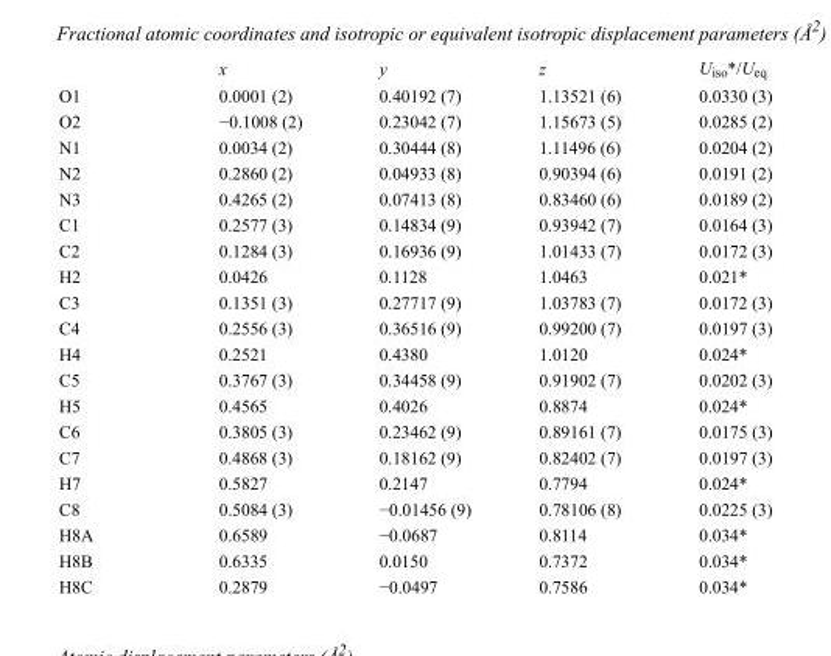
<table><thead><tr><td></td><td>x</td><td>y</td><td>z</td><td>U<sub>iso</sub>*/U<sub>eq</sub></td></tr></thead><tbody><tr><td>O1</td><td>0.0001 (2)</td><td>0.40192 (7)</td><td>1.13521 (6)</td><td>0.0330 (3)</td></tr><tr><td>O2</td><td>−0.1008 (2)</td><td>0.23042 (7)</td><td>1.15673 (5)</td><td>0.0285 (2)</td></tr><tr><td>N1</td><td>0.0034 (2)</td><td>0.30444 (8)</td><td>1.11496 (6)</td><td>0.0204 (2)</td></tr><tr><td>N2</td><td>0.2860 (2)</td><td>0.04933 (8)</td><td>0.90394 (6)</td><td>0.0191 (2)</td></tr><tr><td>N3</td><td>0.4265 (2)</td><td>0.07413 (8)</td><td>0.83460 (6)</td><td>0.0189 (2)</td></tr><tr><td>C1</td><td>0.2577 (3)</td><td>0.14834 (9)</td><td>0.93942 (7)</td><td>0.0164 (3)</td></tr><tr><td>C2</td><td>0.1284 (3)</td><td>0.16936 (9)</td><td>1.01433 (7)</td><td>0.0172 (3)</td></tr><tr><td>H2</td><td>0.0426</td><td>0.1128</td><td>1.0463</td><td>0.021*</td></tr><tr><td>C3</td><td>0.1351 (3)</td><td>0.27717 (9)</td><td>1.03783 (7)</td><td>0.0172 (3)</td></tr><tr><td>C4</td><td>0.2556 (3)</td><td>0.36516 (9)</td><td>0.99200 (7)</td><td>0.0197 (3)</td></tr><tr><td>H4</td><td>0.2521</td><td>0.4380</td><td>1.0120</td><td>0.024*</td></tr><tr><td>C5</td><td>0.3767 (3)</td><td>0.34458 (9)</td><td>0.91902 (7)</td><td>0.0202 (3)</td></tr><tr><td>H5</td><td>0.4565</td><td>0.4026</td><td>0.8874</td><td>0.024*</td></tr><tr><td>C6</td><td>0.3805 (3)</td><td>0.23462 (9)</td><td>0.89161 (7)</td><td>0.0175 (3)</td></tr><tr><td>C7</td><td>0.4868 (3)</td><td>0.18162 (9)</td><td>0.82402 (7)</td><td>0.0197 (3)</td></tr><tr><td>H7</td><td>0.5827</td><td>0.2147</td><td>0.7794</td><td>0.024*</td></tr><tr><td>C8</td><td>0.5084 (3)</td><td>−0.01456 (9)</td><td>0.78106 (8)</td><td>0.0225 (3)</td></tr><tr><td>H8A</td><td>0.6589</td><td>−0.0687</td><td>0.8114</td><td>0.034*</td></tr><tr><td>H8B</td><td>0.6335</td><td>0.0150</td><td>0.7372</td><td>0.034*</td></tr><tr><td>H8C</td><td>0.2879</td><td>−0.0497</td><td>0.7586</td><td>0.034*</td></tr></tbody></table>